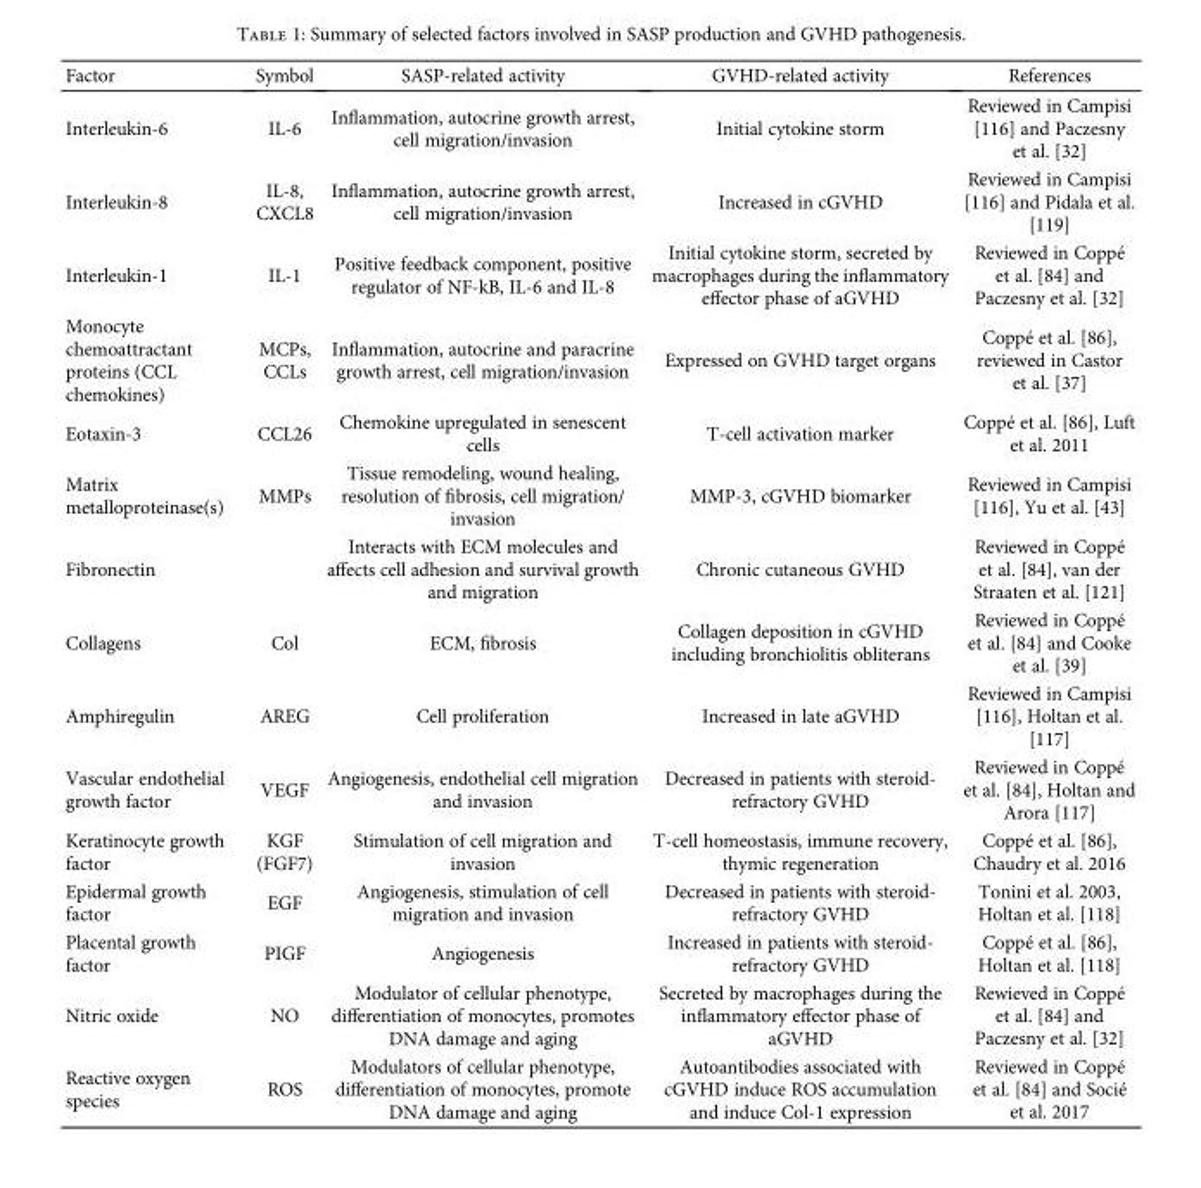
<table><thead><tr><td>Factor</td><td>Symbol</td><td>SASP-related activity</td><td>GVHD-related activity</td><td>References</td></tr></thead><tbody><tr><td>Interleukin-6</td><td>IL-6</td><td>Inflammation, autocrine growth arrest, cell migration/invasion</td><td>Initial cytokine storm</td><td>Reviewed in Campisi [116] and Paczesny et al. [32]</td></tr><tr><td>Interleukin-8</td><td>IL-8, CXCL8</td><td>Inflammation, autocrine growth arrest, cell migration/invasion</td><td>Increased in cGVHD</td><td>Reviewed in Campisi [116] and Pidala et al. [119]</td></tr><tr><td>Interleukin-1</td><td>IL-1</td><td>Positive feedback component, positive regulator of NF-kB, IL-6 and IL-8</td><td>Initial cytokine storm, secreted by macrophages during the inflammatory effector phase of aGVHD</td><td>Reviewed in Coppé et al. [84] and Paczesny et al. [32]</td></tr><tr><td>Monocyte chemoattractant proteins (CCL chemokines)</td><td>MCPs, CCLs</td><td>Inflammation, autocrine and paracrine growth arrest, cell migration/invasion</td><td>Expressed on GVHD target organs</td><td>Coppé et al. [86], reviewed in Castor et al. [37]</td></tr><tr><td>Eotaxin-3</td><td>CCL26</td><td>Chemokine upregulated in senescent cells</td><td>T-cell activation marker</td><td>Coppé et al. [86], Luft et al. 2011</td></tr><tr><td>Matrix metalloproteinase(s)</td><td>MMPs</td><td>Tissue remodeling, wound healing, resolution of fibrosis, cell migration/ invasion</td><td>MMP-3, cGVHD biomarker</td><td>Reviewed in Campisi [116], Yu et al. [43]</td></tr><tr><td>Fibronectin</td><td></td><td>Interacts with ECM molecules and affects cell adhesion and survival growth and migration</td><td>Chronic cutaneous GVHD</td><td>Reviewed in Coppé et al. [84], van der Straaten et al. [121]</td></tr><tr><td>Collagens</td><td>Col</td><td>ECM, fibrosis</td><td>Collagen deposition in cGVHD including bronchiolitis obliterans</td><td>Reviewed in Coppé et al. [84] and Cooke et al. [39]</td></tr><tr><td>Amphiregulin</td><td>AREG</td><td>Cell proliferation</td><td>Increased in late aGVHD</td><td>Reviewed in Campisi [116], Holtan et al. [117]</td></tr><tr><td>Vascular endothelial growth factor</td><td>VEGF</td><td>Angiogenesis, endothelial cell migration and invasion</td><td>Decreased in patients with steroid- refractory GVHD</td><td>Reviewed in Coppé et al. [84], Holtan and Arora [117]</td></tr><tr><td>Keratinocyte growth factor</td><td>KGF (FGF7)</td><td>Stimulation of cell migration and invasion</td><td>T-cell homeostasis, immune recovery, thymic regeneration</td><td>Coppé et al. [86], Chaudry et al. 2016</td></tr><tr><td>Epidermal growth factor</td><td>EGF</td><td>Angiogenesis, stimulation of cell migration and invasion</td><td>Decreased in patients with steroid- refractory GVHD</td><td>Tonini et al. 2003, Holtan et al. [118]</td></tr><tr><td>Placental growth factor</td><td>PIGF</td><td>Angiogenesis</td><td>Increased in patients with steroid- refractory GVHD</td><td>Coppé et al. [86], Holtan et al. [118]</td></tr><tr><td>Nitric oxide</td><td>NO</td><td>Modulator of cellular phenotype, differentiation of monocytes, promotes DNA damage and aging</td><td>Secreted by macrophages during the inflammatory effector phase of aGVHD</td><td>Rewieved in Coppé et al. [84] and Paczesny et al. [32]</td></tr><tr><td>Reactive oxygen species</td><td>ROS</td><td>Modulators of cellular phenotype, differentiation of monocytes, promote DNA damage and aging</td><td>Autoantibodies associated with cGVHD induce ROS accumulation and induce Col-1 expression</td><td>Reviewed in Coppé et al. [84] and Socié et al. 2017</td></tr></tbody></table>